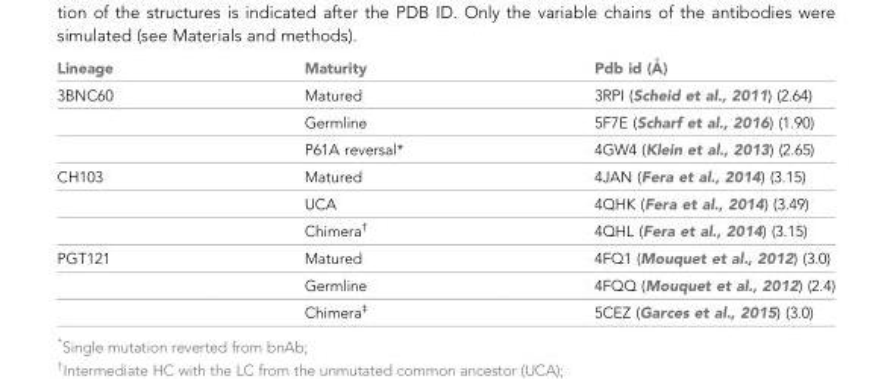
<table><thead><tr><td>Lineage</td><td>Maturity</td><td>Pdb id (A˚ )</td></tr></thead><tbody><tr><td rowspan="3">3BNC60</td><td>Matured</td><td>3RPI (Scheid et al., 2011) (2.64)</td></tr><tr><td>Germline</td><td>5F7E (Scharf et al., 2016) (1.90)</td></tr><tr><td>P61A reversal*</td><td>4GW4 (Klein et al., 2013) (2.65)</td></tr><tr><td rowspan="3">CH103</td><td>Matured</td><td>4JAN (Fera et al., 2014) (3.15)</td></tr><tr><td>UCA</td><td>4QHK (Fera et al., 2014) (3.49)</td></tr><tr><td>Chimera<sup>†</sup></td><td>4QHL (Fera et al., 2014) (3.15)</td></tr><tr><td rowspan="3">PGT121</td><td>Matured</td><td>4FQ1 (Mouquet et al., 2012) (3.0)</td></tr><tr><td>Germline</td><td>4FQQ (Mouquet et al., 2012) (2.4)</td></tr><tr><td>Chimera<sup>‡</sup></td><td>5CEZ (Garces et al., 2015) (3.0)</td></tr></tbody></table>